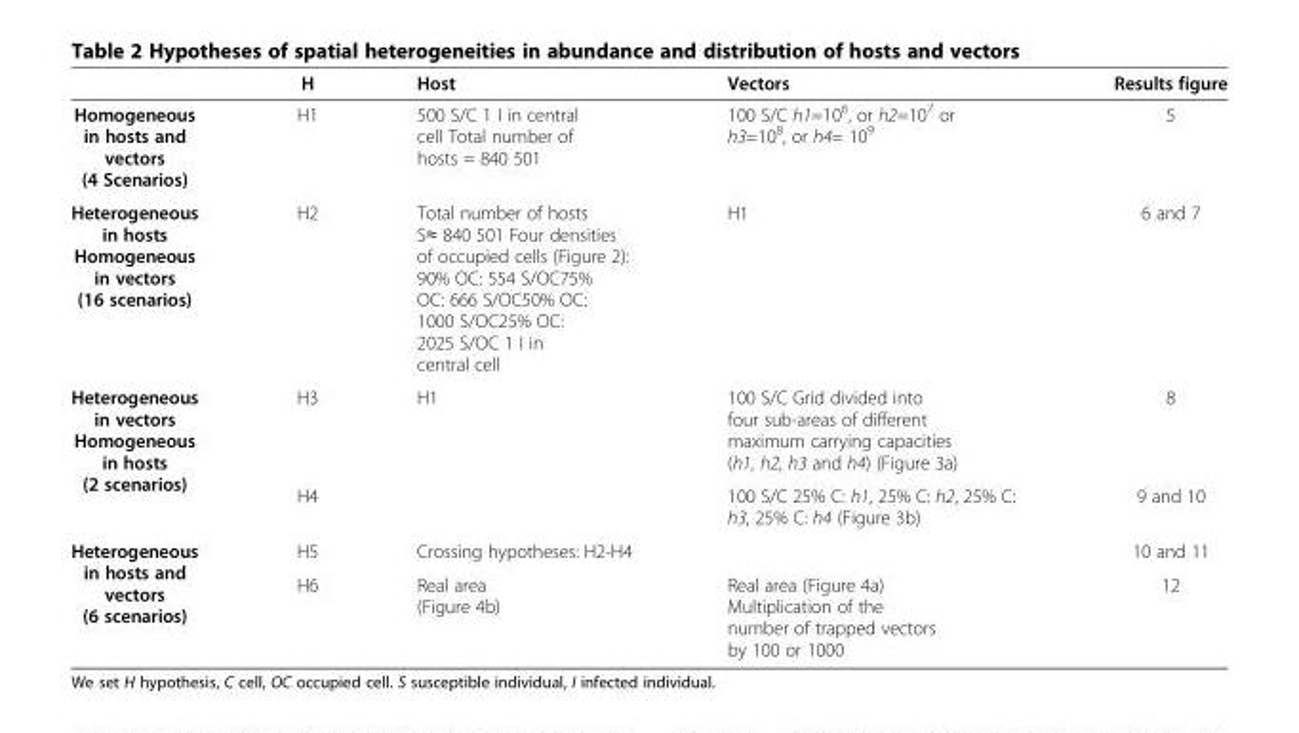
<table><thead><tr><td></td><td>H</td><td>Host</td><td>Vectors</td><td>Results figure</td></tr></thead><tbody><tr><td>Homogeneous in hosts and vectors (4 Scenarios)</td><td>H1</td><td>500 S/C 1 I in central cell Total number of hosts = 840 501</td><td>100 S/C h1=10<sup>6</sup>, or h2=10<sup>7</sup> or h3=10<sup>8</sup>, or h4= 10<sup>9</sup></td><td>5</td></tr><tr><td>Heterogeneous in hosts Homogeneous in vectors (16 scenarios)</td><td>H2</td><td>Total number of hosts S≈ 840 501 Four densities of occupied cells (Figure 2): 90% OC: 554 S/OC75% OC: 666 S/OC50% OC: 1000 S/OC25% OC: 2025 S/OC 1 I in central cell</td><td>H1</td><td>6 and 7</td></tr><tr><td rowspan="2">Heterogeneous in vectors Homogeneous in hosts (2 scenarios)</td><td>H3</td><td rowspan="2">H1</td><td>100 S/C Grid divided into four sub-areas of different maximum carrying capacities (h1, h2, h3 and h4) (Figure 3a)</td><td>8</td></tr><tr><td>H4</td><td>100 S/C 25% C: h1, 25% C: h2, 25% C: h3, 25% C: h4 (Figure 3b)</td><td>9 and 10</td></tr><tr><td rowspan="2">Heterogeneous in hosts and vectors (6 scenarios)</td><td>H5</td><td colspan="2">Crossing hypotheses: H2-H4</td><td>10 and 11</td></tr><tr><td>H6</td><td>Real area (Figure 4b)</td><td>Real area (Figure 4a) Multiplication of the number of trapped vectors by 100 or 1000</td><td>12</td></tr></tbody></table>